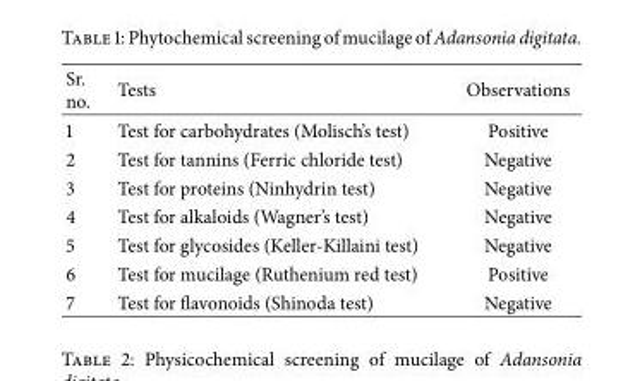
<table><thead><tr><td>Sr. no.</td><td>Tests</td><td>Observations</td></tr></thead><tbody><tr><td>1</td><td>Test for carbohydrates (Molisch’s test)</td><td>Positive</td></tr><tr><td>2</td><td>Test for tannins (Ferric chloride test)</td><td>Negative</td></tr><tr><td>3</td><td>Test for proteins (Ninhydrin test)</td><td>Negative</td></tr><tr><td>4</td><td>Test for alkaloids (Wagner’s test)</td><td>Negative</td></tr><tr><td>5</td><td>Test for glycosides (Keller-Killaini test)</td><td>Negative</td></tr><tr><td>6</td><td>Test for mucilage (Ruthenium red test)</td><td>Positive</td></tr><tr><td>7</td><td>Test for flavonoids (Shinoda test)</td><td>Negative</td></tr></tbody></table>